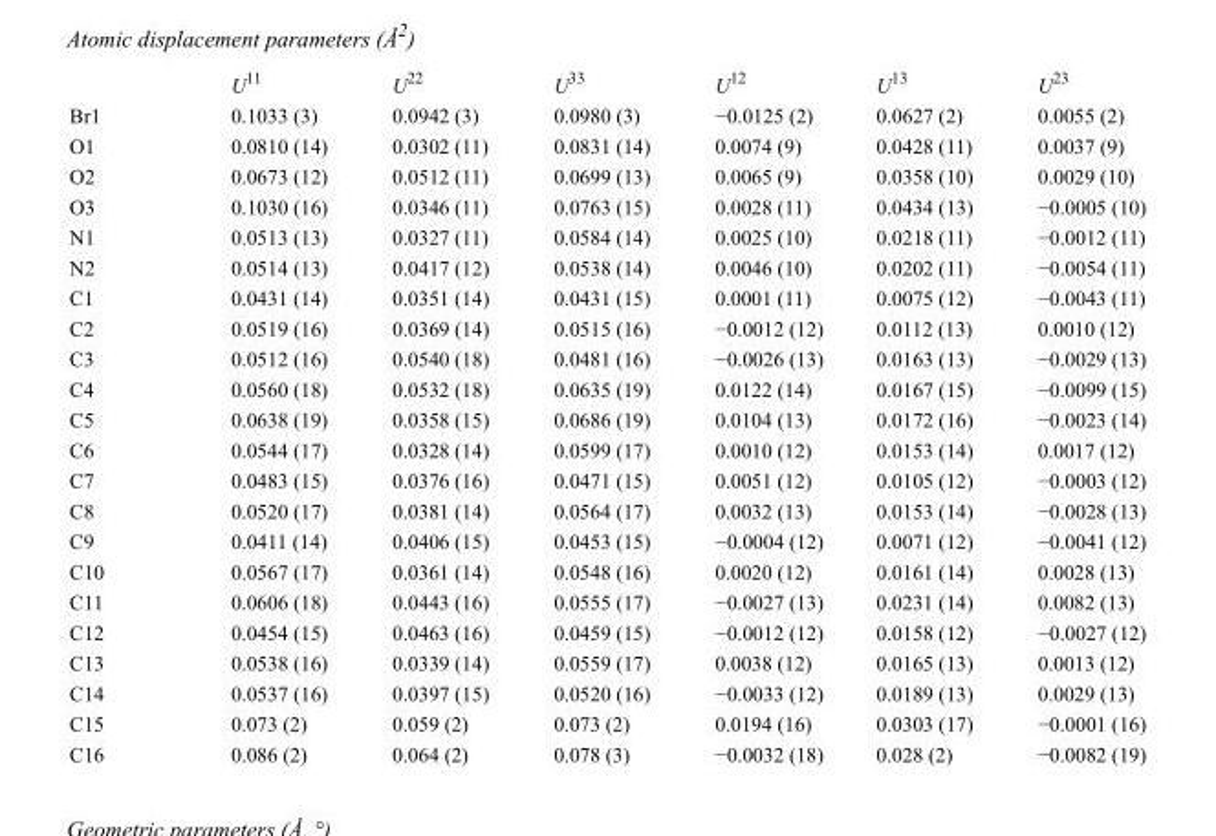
<table><thead><tr><td></td><td>U<sup>11</sup></td><td>U<sup>22</sup></td><td>U<sup>33</sup></td><td>U<sup>12</sup></td><td>U<sup>13</sup></td><td>U<sup>23</sup></td></tr></thead><tbody><tr><td>Br1</td><td>0.1033 (3)</td><td>0.0942 (3)</td><td>0.0980 (3)</td><td>−0.0125 (2)</td><td>0.0627 (2)</td><td>0.0055 (2)</td></tr><tr><td>O1</td><td>0.0810 (14)</td><td>0.0302 (11)</td><td>0.0831 (14)</td><td>0.0074 (9)</td><td>0.0428 (11)</td><td>0.0037 (9)</td></tr><tr><td>O2</td><td>0.0673 (12)</td><td>0.0512 (11)</td><td>0.0699 (13)</td><td>0.0065 (9)</td><td>0.0358 (10)</td><td>0.0029 (10)</td></tr><tr><td>O3</td><td>0.1030 (16)</td><td>0.0346 (11)</td><td>0.0763 (15)</td><td>0.0028 (11)</td><td>0.0434 (13)</td><td>−0.0005 (10)</td></tr><tr><td>N1</td><td>0.0513 (13)</td><td>0.0327 (11)</td><td>0.0584 (14)</td><td>0.0025 (10)</td><td>0.0218 (11)</td><td>−0.0012 (11)</td></tr><tr><td>N2</td><td>0.0514 (13)</td><td>0.0417 (12)</td><td>0.0538 (14)</td><td>0.0046 (10)</td><td>0.0202 (11)</td><td>−0.0054 (11)</td></tr><tr><td>C1</td><td>0.0431 (14)</td><td>0.0351 (14)</td><td>0.0431 (15)</td><td>0.0001 (11)</td><td>0.0075 (12)</td><td>−0.0043 (11)</td></tr><tr><td>C2</td><td>0.0519 (16)</td><td>0.0369 (14)</td><td>0.0515 (16)</td><td>−0.0012 (12)</td><td>0.0112 (13)</td><td>0.0010 (12)</td></tr><tr><td>C3</td><td>0.0512 (16)</td><td>0.0540 (18)</td><td>0.0481 (16)</td><td>−0.0026 (13)</td><td>0.0163 (13)</td><td>−0.0029 (13)</td></tr><tr><td>C4</td><td>0.0560 (18)</td><td>0.0532 (18)</td><td>0.0635 (19)</td><td>0.0122 (14)</td><td>0.0167 (15)</td><td>−0.0099 (15)</td></tr><tr><td>C5</td><td>0.0638 (19)</td><td>0.0358 (15)</td><td>0.0686 (19)</td><td>0.0104 (13)</td><td>0.0172 (16)</td><td>−0.0023 (14)</td></tr><tr><td>C6</td><td>0.0544 (17)</td><td>0.0328 (14)</td><td>0.0599 (17)</td><td>0.0010 (12)</td><td>0.0153 (14)</td><td>0.0017 (12)</td></tr><tr><td>C7</td><td>0.0483 (15)</td><td>0.0376 (16)</td><td>0.0471 (15)</td><td>0.0051 (12)</td><td>0.0105 (12)</td><td>−0.0003 (12)</td></tr><tr><td>C8</td><td>0.0520 (17)</td><td>0.0381 (14)</td><td>0.0564 (17)</td><td>0.0032 (13)</td><td>0.0153 (14)</td><td>−0.0028 (13)</td></tr><tr><td>C9</td><td>0.0411 (14)</td><td>0.0406 (15)</td><td>0.0453 (15)</td><td>−0.0004 (12)</td><td>0.0071 (12)</td><td>−0.0041 (12)</td></tr><tr><td>C10</td><td>0.0567 (17)</td><td>0.0361 (14)</td><td>0.0548 (16)</td><td>0.0020 (12)</td><td>0.0161 (14)</td><td>0.0028 (13)</td></tr><tr><td>C11</td><td>0.0606 (18)</td><td>0.0443 (16)</td><td>0.0555 (17)</td><td>−0.0027 (13)</td><td>0.0231 (14)</td><td>0.0082 (13)</td></tr><tr><td>C12</td><td>0.0454 (15)</td><td>0.0463 (16)</td><td>0.0459 (15)</td><td>−0.0012 (12)</td><td>0.0158 (12)</td><td>−0.0027 (12)</td></tr><tr><td>C13</td><td>0.0538 (16)</td><td>0.0339 (14)</td><td>0.0559 (17)</td><td>0.0038 (12)</td><td>0.0165 (13)</td><td>0.0013 (12)</td></tr><tr><td>C14</td><td>0.0537 (16)</td><td>0.0397 (15)</td><td>0.0520 (16)</td><td>−0.0033 (12)</td><td>0.0189 (13)</td><td>0.0029 (13)</td></tr><tr><td>C15</td><td>0.073 (2)</td><td>0.059 (2)</td><td>0.073 (2)</td><td>0.0194 (16)</td><td>0.0303 (17)</td><td>−0.0001 (16)</td></tr><tr><td>C16</td><td>0.086 (2)</td><td>0.064 (2)</td><td>0.078 (3)</td><td>−0.0032 (18)</td><td>0.028 (2)</td><td>−0.0082 (19)</td></tr></tbody></table>